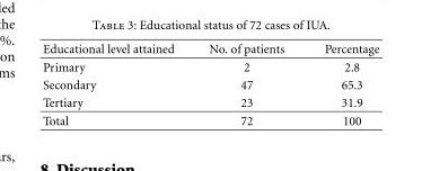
<table><thead><tr><td>Educational level attained</td><td>No. of patients</td><td>Percentage</td></tr></thead><tbody><tr><td>Primary</td><td>2</td><td>2.8</td></tr><tr><td>Secondary</td><td>47</td><td>65.3</td></tr><tr><td>Tertiary</td><td>23</td><td>31.9</td></tr><tr><td>Total</td><td>72</td><td>100</td></tr></tbody></table>